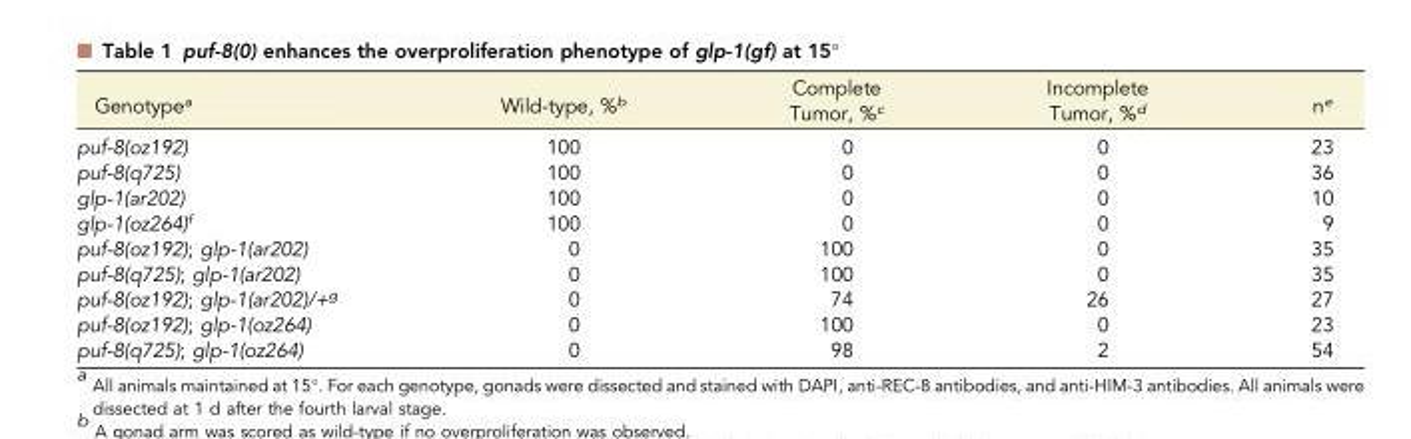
<table><thead><tr><td>Genotype<sup>a</sup></td><td>Wild-type, %<sup>b</sup></td><td>Complete Tumor, %<sup>c</sup></td><td>Incomplete Tumor, %<sup>d</sup></td><td>n<sup>e</sup></td></tr></thead><tbody><tr><td>puf-8(oz192)</td><td>100</td><td>0</td><td>0</td><td>23</td></tr><tr><td>puf-8(q725)</td><td>100</td><td>0</td><td>0</td><td>36</td></tr><tr><td>glp-1(ar202)</td><td>100</td><td>0</td><td>0</td><td>10</td></tr><tr><td>glp-1(oz264)<sup>f</sup></td><td>100</td><td>0</td><td>0</td><td>9</td></tr><tr><td>puf-8(oz192); glp-1(ar202)</td><td>0</td><td>100</td><td>0</td><td>35</td></tr><tr><td>puf-8(q725); glp-1(ar202)</td><td>0</td><td>100</td><td>0</td><td>35</td></tr><tr><td>puf-8(oz192); glp-1(ar202)/+<sup>g</sup></td><td>0</td><td>74</td><td>26</td><td>27</td></tr><tr><td>puf-8(oz192); glp-1(oz264)</td><td>0</td><td>100</td><td>0</td><td>23</td></tr><tr><td>puf-8(q725); glp-1(oz264)</td><td>0</td><td>98</td><td>2</td><td>54</td></tr></tbody></table>